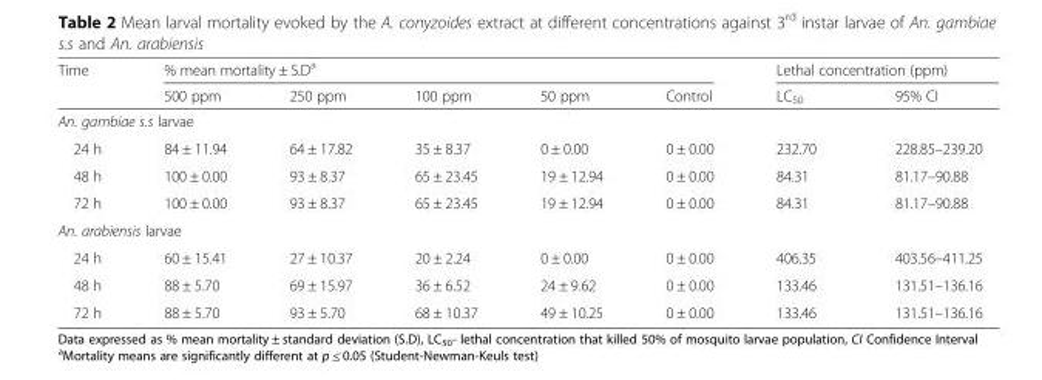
<table><thead><tr><td rowspan="2">Time</td><td colspan="5">% mean mortality ± S.D<sup>a</sup></td><td colspan="2">Lethal concentration (ppm)</td></tr><tr><td>500 ppm</td><td>250 ppm</td><td>100 ppm</td><td>50 ppm</td><td>Control</td><td>LC<sub>50</sub></td><td>95% CI</td></tr></thead><tbody><tr><td colspan="8">An. gambiae s.s larvae</td></tr><tr><td>24 h</td><td>84 ± 11.94</td><td>64 ± 17.82</td><td>35 ± 8.37</td><td>0 ± 0.00</td><td>0 ± 0.00</td><td>232.70</td><td>228.85–239.20</td></tr><tr><td>48 h</td><td>100 ± 0.00</td><td>93 ± 8.37</td><td>65 ± 23.45</td><td>19 ± 12.94</td><td>0 ± 0.00</td><td>84.31</td><td>81.17–90.88</td></tr><tr><td>72 h</td><td>100 ± 0.00</td><td>93 ± 8.37</td><td>65 ± 23.45</td><td>19 ± 12.94</td><td>0 ± 0.00</td><td>84.31</td><td>81.17–90.88</td></tr><tr><td colspan="8">An. arabiensis larvae</td></tr><tr><td>24 h</td><td>60 ± 15.41</td><td>27 ± 10.37</td><td>20 ± 2.24</td><td>0 ± 0.00</td><td>0 ± 0.00</td><td>406.35</td><td>403.56–411.25</td></tr><tr><td>48 h</td><td>88 ± 5.70</td><td>69 ± 15.97</td><td>36 ± 6.52</td><td>24 ± 9.62</td><td>0 ± 0.00</td><td>133.46</td><td>131.51–136.16</td></tr><tr><td>72 h</td><td>88 ± 5.70</td><td>93 ± 5.70</td><td>68 ± 10.37</td><td>49 ± 10.25</td><td>0 ± 0.00</td><td>133.46</td><td>131.51–136.16</td></tr></tbody></table>